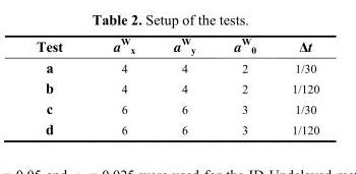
<table><thead><tr><td>Test</td><td>a<sup>W</sup> <sub>x</sub></td><td>a<sup>W</sup> <sub>y</sub></td><td>a<sup>W</sup> <sub>θ</sub></td><td>Δt</td></tr></thead><tbody><tr><td>a</td><td>4</td><td>4</td><td>2</td><td>1/30</td></tr><tr><td>b</td><td>4</td><td>4</td><td>2</td><td>1/120</td></tr><tr><td>c</td><td>6</td><td>6</td><td>3</td><td>1/30</td></tr><tr><td>d</td><td>6</td><td>6</td><td>3</td><td>1/120</td></tr></tbody></table>